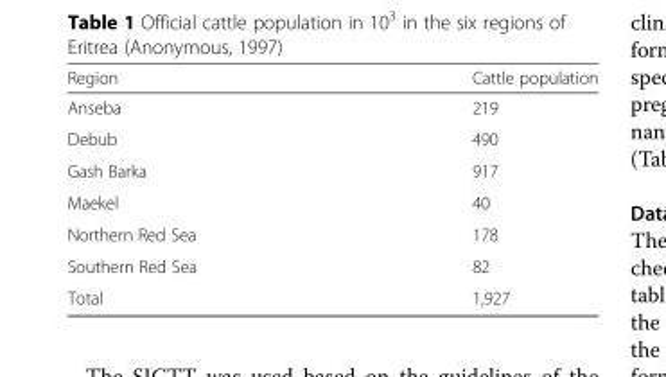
<table><thead><tr><td>Region</td><td>Cattle population</td></tr></thead><tbody><tr><td>Anseba</td><td>219</td></tr><tr><td>Debub</td><td>490</td></tr><tr><td>Gash Barka</td><td>917</td></tr><tr><td>Maekel</td><td>40</td></tr><tr><td>Northern Red Sea</td><td>178</td></tr><tr><td>Southern Red Sea</td><td>82</td></tr><tr><td>Total</td><td>1,927</td></tr></tbody></table>